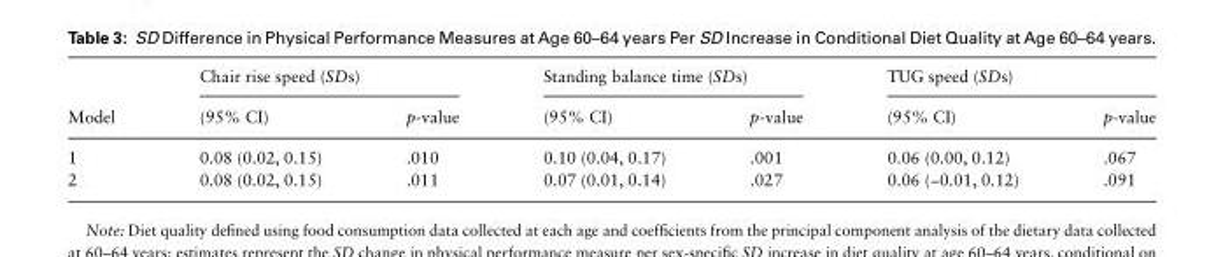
<table><thead><tr><td rowspan="2">Model</td><td colspan="2">Chair rise speed (SDs)</td><td colspan="2">Standing balance time (SDs)</td><td colspan="2">TUG speed (SDs)</td></tr><tr><td>(95% CI)</td><td>p-value</td><td>(95% CI)</td><td>p-value</td><td>(95% CI)</td><td>p-value</td></tr></thead><tbody><tr><td>1</td><td>0.08 (0.02, 0.15)</td><td>.010</td><td>0.10 (0.04, 0.17)</td><td>.001</td><td>0.06 (0.00, 0.12)</td><td>.067</td></tr><tr><td>2</td><td>0.08 (0.02, 0.15)</td><td>.011</td><td>0.07 (0.01, 0.14)</td><td>.027</td><td>0.06 (−0.01, 0.12)</td><td>.091</td></tr></tbody></table>